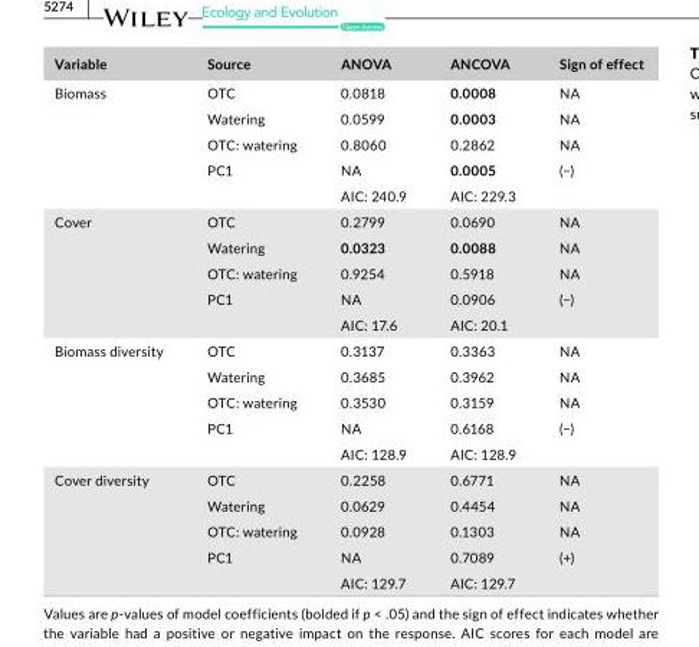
<table><thead><tr><td>Variable</td><td>Source</td><td>ANOVA</td><td>ANCOVA</td><td>Sign of effect</td></tr></thead><tbody><tr><td rowspan="5">Biomass</td><td>OTC</td><td>0.0818</td><td>0.0008</td><td>NA</td></tr><tr><td>Watering</td><td>0.0599</td><td>0.0003</td><td>NA</td></tr><tr><td>OTC: watering</td><td>0.8060</td><td>0.2862</td><td>NA</td></tr><tr><td>PC1</td><td>NA</td><td>0.0005</td><td>(−)</td></tr><tr><td></td><td>AIC: 240.9</td><td>AIC: 229.3</td><td></td></tr><tr><td rowspan="5">Cover</td><td>OTC</td><td>0.2799</td><td>0.0690</td><td>NA</td></tr><tr><td>Watering</td><td>0.0323</td><td>0.0088</td><td>NA</td></tr><tr><td>OTC: watering</td><td>0.9254</td><td>0.5918</td><td>NA</td></tr><tr><td>PC1</td><td>NA</td><td>0.0906</td><td>(−)</td></tr><tr><td></td><td>AIC: 17.6</td><td>AIC: 20.1</td><td></td></tr><tr><td rowspan="5">Biomass diversity</td><td>OTC</td><td>0.3137</td><td>0.3363</td><td>NA</td></tr><tr><td>Watering</td><td>0.3685</td><td>0.3962</td><td>NA</td></tr><tr><td>OTC: watering</td><td>0.3530</td><td>0.3159</td><td>NA</td></tr><tr><td>PC1</td><td>NA</td><td>0.6168</td><td>(−)</td></tr><tr><td></td><td>AIC: 128.9</td><td>AIC: 128.9</td><td></td></tr><tr><td rowspan="5">Cover diversity</td><td>OTC</td><td>0.2258</td><td>0.6771</td><td>NA</td></tr><tr><td>Watering</td><td>0.0629</td><td>0.4454</td><td>NA</td></tr><tr><td>OTC: watering</td><td>0.0928</td><td>0.1303</td><td>NA</td></tr><tr><td>PC1</td><td>NA</td><td>0.7089</td><td>(+)</td></tr><tr><td></td><td>AIC: 129.7</td><td>AIC: 129.7</td><td></td></tr></tbody></table>